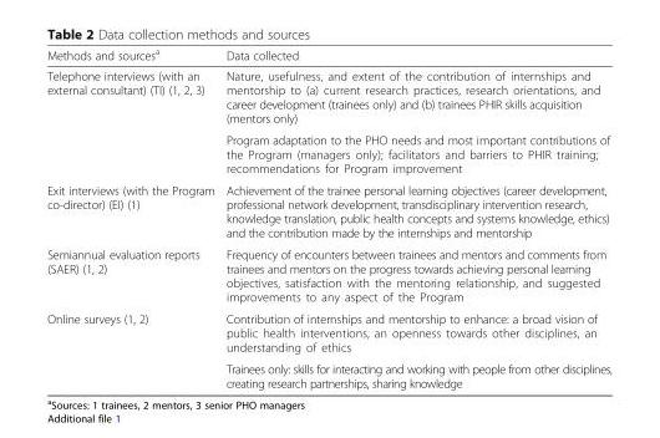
<table><thead><tr><td>Methods and sources<sup>a</sup></td><td>Data collected</td></tr></thead><tbody><tr><td rowspan="2">Telephone interviews (with an external consultant) (TI) (1, 2, 3)</td><td>Nature, usefulness, and extent of the contribution of internships and mentorship to (a) current research practices, research orientations, and career development (trainees only) and (b) trainees PHIR skills acquisition (mentors only)</td></tr><tr><td>Program adaptation to the PHO needs and most important contributions of the Program (managers only); facilitators and barriers to PHIR training; recommendations for Program improvement</td></tr><tr><td>Exit interviews (with the Program co-director) (EI) (1)</td><td>Achievement of the trainee personal learning objectives (career development, professional network development, transdisciplinary intervention research, knowledge translation, public health concepts and systems knowledge, ethics) and the contribution made by the internships and mentorship</td></tr><tr><td>Semiannual evaluation reports (SAER) (1, 2)</td><td>Frequency of encounters between trainees and mentors and comments from trainees and mentors on the progress towards achieving personal learning objectives, satisfaction with the mentoring relationship, and suggested improvements to any aspect of the Program</td></tr><tr><td rowspan="2">Online surveys (1, 2)</td><td>Contribution of internships and mentorship to enhance: a broad vision of public health interventions, an openness towards other disciplines, an understanding of ethics</td></tr><tr><td>Trainees only: skills for interacting and working with people from other disciplines, creating research partnerships, sharing knowledge</td></tr></tbody></table>